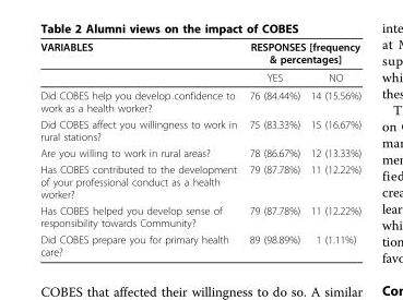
<table><thead><tr><td rowspan="2">VARIABLES</td><td colspan="2">RESPONSES [frequency &amp; percentages]</td></tr><tr><td>YES</td><td>NO</td></tr></thead><tbody><tr><td>Did COBES help you develop confidence to work as a health worker?</td><td>76 (84.44%)</td><td>14 (15.56%)</td></tr><tr><td>Did COBES affect you willingness to work in rural stations?</td><td>75 (83.33%)</td><td>15 (16.67%)</td></tr><tr><td>Are you willing to work in rural areas?</td><td>78 (86.67%)</td><td>12 (13.33%)</td></tr><tr><td>Has COBES contributed to the development of your professional conduct as a health worker?</td><td>79 (87.78%)</td><td>11 (12.22%)</td></tr><tr><td>Has COBES helped you develop sense of responsibility towards Community?</td><td>79 (87.78%)</td><td>11 (12.22%)</td></tr><tr><td>Did COBES prepare you for primary health care?</td><td>89 (98.89%)</td><td>1 (1.11%)</td></tr></tbody></table>